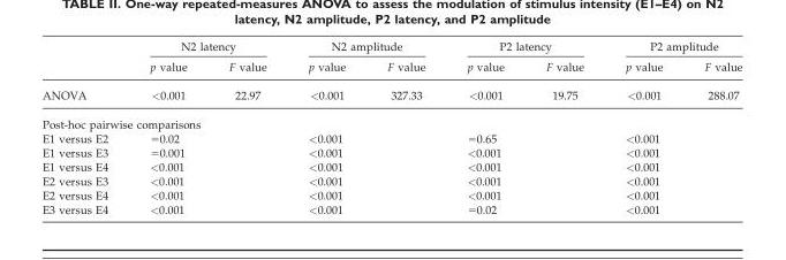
<table><thead><tr><td rowspan="3">ANOVA</td><td colspan="2">N2 latency</td><td colspan="2">N2 amplitude</td><td colspan="2">P2 latency</td><td colspan="2">P2 amplitude</td></tr><tr><td rowspan="2">p value &lt;0.001</td><td rowspan="2">F value 22.97</td><td rowspan="2">p value &lt;0.001</td><td rowspan="2">F value 327.33</td><td rowspan="2">p value &lt;0.001</td><td rowspan="2">F value 19.75</td><td rowspan="2">p value &lt;0.001</td><td rowspan="2">F value 288.07</td></tr><tr></tr></thead><tbody><tr><td colspan="9">Post-hoc pairwise comparisons</td></tr><tr><td>E1 versus E2</td><td>=0.02</td><td></td><td>&lt;0.001</td><td></td><td>=0.65</td><td></td><td>&lt;0.001</td><td></td></tr><tr><td>E1 versus E3</td><td>=0.001</td><td></td><td>&lt;0.001</td><td></td><td>&lt;0.001</td><td></td><td>&lt;0.001</td><td></td></tr><tr><td>E1 versus E4</td><td>&lt;0.001</td><td></td><td>&lt;0.001</td><td></td><td>&lt;0.001</td><td></td><td>&lt;0.001</td><td></td></tr><tr><td>E2 versus E3</td><td>&lt;0.001</td><td></td><td>&lt;0.001</td><td></td><td>&lt;0.001</td><td></td><td>&lt;0.001</td><td></td></tr><tr><td>E2 versus E4</td><td>&lt;0.001</td><td></td><td>&lt;0.001</td><td></td><td>&lt;0.001</td><td></td><td>&lt;0.001</td><td></td></tr><tr><td>E3 versus E4</td><td>&lt;0.001</td><td></td><td>&lt;0.001</td><td></td><td>=0.02</td><td></td><td>&lt;0.001</td><td></td></tr></tbody></table>